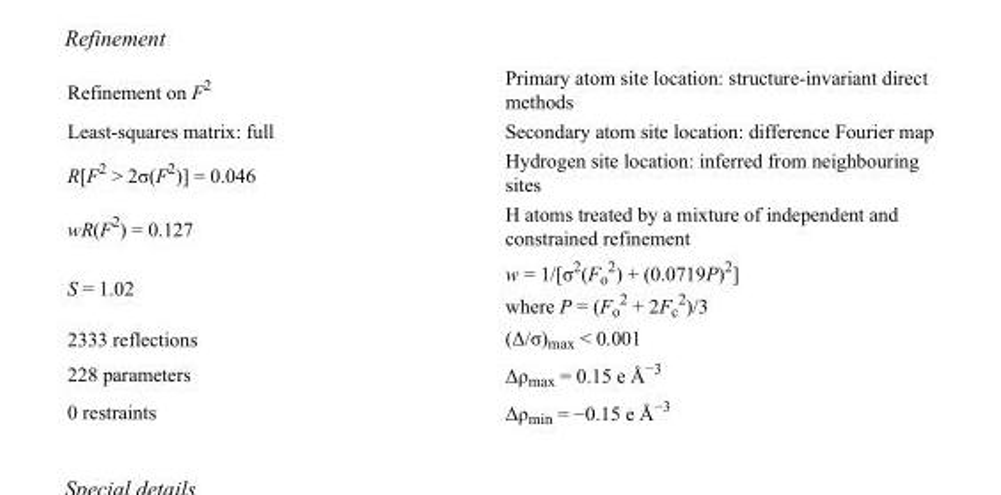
<table><tbody><tr><td>Refinement on F<sup>2</sup></td><td>Primary atom site location: structure-invariant direct methods</td></tr><tr><td>Least-squares matrix: full</td><td>Secondary atom site location: difference Fourier map</td></tr><tr><td>R[F<sup>2</sup> &gt; 2σ(F<sup>2</sup>)] = 0.046</td><td>Hydrogen site location: inferred from neighbouring sites</td></tr><tr><td>wR(F<sup>2</sup>) = 0.127</td><td>H atoms treated by a mixture of independent and constrained refinement</td></tr><tr><td>S = 1.02</td><td>w = 1/[σ<sup>2</sup>(F<sub>o</sub> <sup>2</sup>) + (0.0719P)<sup>2</sup>] where P = (F<sub>o</sub> <sup>2</sup> + 2F<sub>c</sub> <sup>2</sup>)/3</td></tr><tr><td>2333 reflections</td><td>(Δ/σ)<sub>max</sub> &lt; 0.001</td></tr><tr><td>228 parameters</td><td>Δρ<sub>max</sub> = 0.15 e Å<sup>−3</sup></td></tr><tr><td>0 restraints</td><td>Δρ<sub>min</sub> = −0.15 e Å<sup>−3</sup></td></tr></tbody></table>